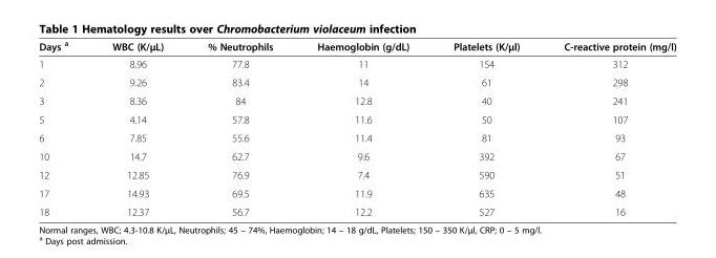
<table><thead><tr><td>Days <sup>a</sup></td><td>WBC (K/μL)</td><td>% Neutrophils</td><td>Haemoglobin (g/dL)</td><td>Platelets (K/μl)</td><td>C-reactive protein (mg/l)</td></tr></thead><tbody><tr><td>1</td><td>8.96</td><td>77.8</td><td>11</td><td>154</td><td>312</td></tr><tr><td>2</td><td>9.26</td><td>83.4</td><td>14</td><td>61</td><td>298</td></tr><tr><td>3</td><td>8.36</td><td>84</td><td>12.8</td><td>40</td><td>241</td></tr><tr><td>5</td><td>4.14</td><td>57.8</td><td>11.6</td><td>50</td><td>107</td></tr><tr><td>6</td><td>7.85</td><td>55.6</td><td>11.4</td><td>81</td><td>93</td></tr><tr><td>10</td><td>14.7</td><td>62.7</td><td>9.6</td><td>392</td><td>67</td></tr><tr><td>12</td><td>12.85</td><td>76.9</td><td>7.4</td><td>590</td><td>51</td></tr><tr><td>17</td><td>14.93</td><td>69.5</td><td>11.9</td><td>635</td><td>48</td></tr><tr><td>18</td><td>12.37</td><td>56.7</td><td>12.2</td><td>527</td><td>16</td></tr></tbody></table>